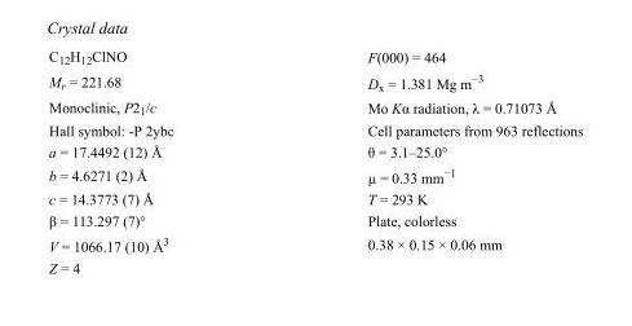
<table><tbody><tr><td>C<sub>12</sub>H<sub>12</sub>ClNO</td><td>F(000) = 464</td></tr><tr><td>M<sub>r</sub> = 221.68</td><td>D<sub>x</sub> = 1.381 Mg m<sup>−3</sup></td></tr><tr><td>Monoclinic, P2<sub>1</sub>/c</td><td>Mo Kα radiation, λ = 0.71073 Å</td></tr><tr><td>Hall symbol: -P 2ybc</td><td>Cell parameters from 963 reflections</td></tr><tr><td>a = 17.4492 (12) Å</td><td>θ = 3.1–25.0°</td></tr><tr><td>b = 4.6271 (2) Å</td><td>µ = 0.33 mm<sup>−1</sup></td></tr><tr><td>c = 14.3773 (7) Å</td><td>T = 293 K</td></tr><tr><td>β = 113.297 (7)°</td><td>Plate, colorless</td></tr><tr><td>V = 1066.17 (10) Å<sup>3</sup></td><td>0.38 × 0.15 × 0.06 mm</td></tr><tr><td>Z = 4</td><td></td></tr></tbody></table>